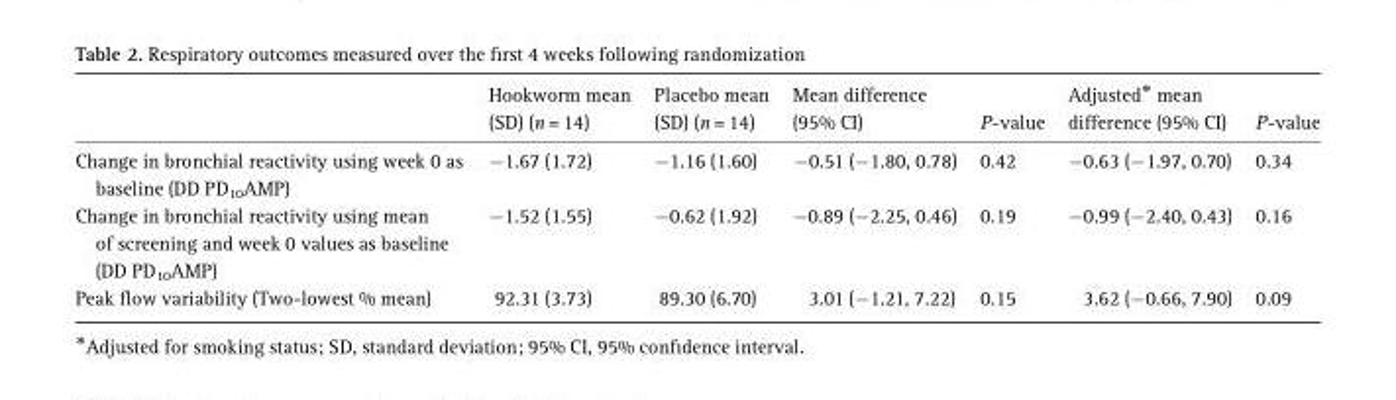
<table><thead><tr><td></td><td>Hookworm mean (SD) (n = 14)</td><td>Placebo mean (SD) (n = 14)</td><td>Mean difference (95% CI)</td><td>P-value</td><td>Adjusted* mean difference (95% CI)</td><td>P-value</td></tr></thead><tbody><tr><td>Change in bronchial reactivity using week 0 as baseline (DD PD<sub>10</sub>AMP)</td><td>−1.67 (1.72)</td><td>−1.16 (1.60)</td><td>−0.51 (−1.80, 0.78)</td><td>0.42</td><td>−0.63 (−1.97, 0.70)</td><td>0.34</td></tr><tr><td>Change in bronchial reactivity using mean of screening and week 0 values as baseline (DD PD<sub>10</sub>AMP)</td><td>−1.52 (1.55)</td><td>−0.62 (1.92)</td><td>−0.89 (−2.25, 0.46)</td><td>0.19</td><td>−0.99 (−2.40, 0.43)</td><td>0.16</td></tr><tr><td>Peak flow variability (Two-lowest % mean)</td><td>92.31 (3.73)</td><td>89.30 (6.70)</td><td>3.01 (−1.21, 7.22)</td><td>0.15</td><td>3.62 (−0.66, 7.90)</td><td>0.09</td></tr></tbody></table>